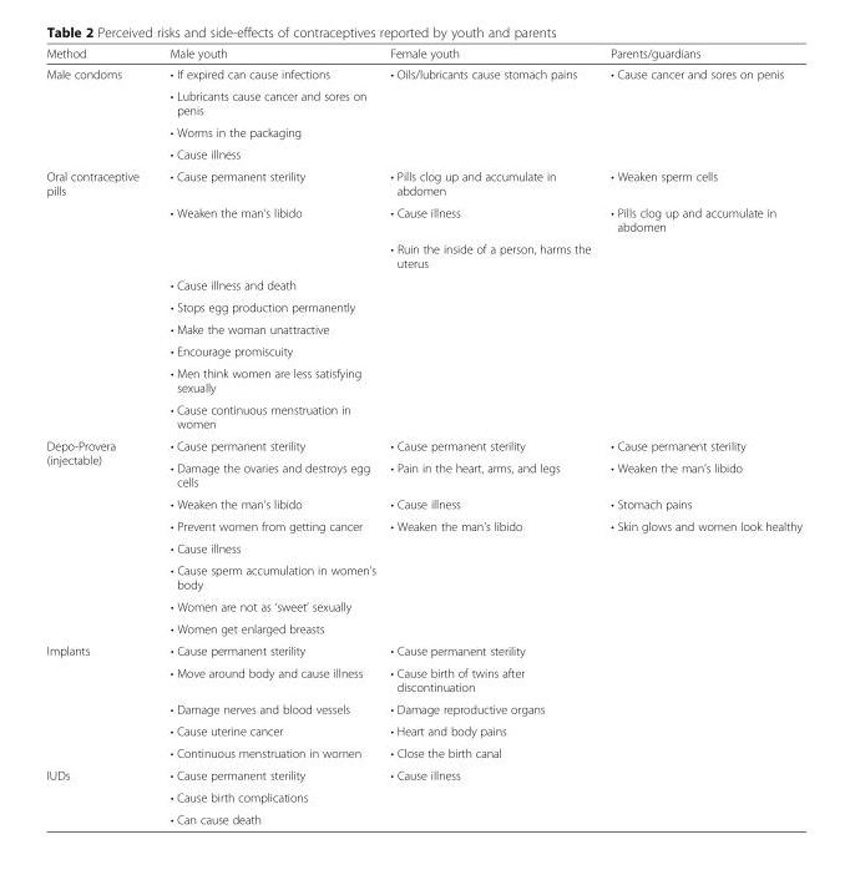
<table><thead><tr><td>Method</td><td>Male youth</td><td>Female youth</td><td>Parents/guardians</td></tr></thead><tbody><tr><td rowspan="4">Male condoms</td><td>• If expired can cause infections</td><td>• Oils/lubricants cause stomach pains</td><td>• Cause cancer and sores on penis</td></tr><tr><td>• Lubricants cause cancer and sores on penis</td><td></td><td></td></tr><tr><td>• Worms in the packaging</td><td></td><td></td></tr><tr><td>• Cause illness</td><td></td><td></td></tr><tr><td rowspan="9">Oral contraceptive pills</td><td>• Cause permanent sterility</td><td>• Pills clog up and accumulate in abdomen</td><td>• Weaken sperm cells</td></tr><tr><td>• Weaken the man’s libido</td><td>• Cause illness</td><td>• Pills clog up and accumulate in abdomen</td></tr><tr><td></td><td>• Ruin the inside of a person, harms the uterus</td><td></td></tr><tr><td>• Cause illness and death</td><td></td><td></td></tr><tr><td>• Stops egg production permanently</td><td></td><td></td></tr><tr><td>• Make the woman unattractive</td><td></td><td></td></tr><tr><td>• Encourage promiscuity</td><td></td><td></td></tr><tr><td>• Men think women are less satisfying sexually</td><td></td><td></td></tr><tr><td>• Cause continuous menstruation in women</td><td></td><td></td></tr><tr><td rowspan="8">Depo-Provera (injectable)</td><td>• Cause permanent sterility</td><td>• Cause permanent sterility</td><td>• Cause permanent sterility</td></tr><tr><td>• Damage the ovaries and destroys egg cells</td><td>• Pain in the heart, arms, and legs</td><td>• Weaken the man’s libido</td></tr><tr><td>• Weaken the man’s libido</td><td>• Cause illness</td><td>• Stomach pains</td></tr><tr><td>• Prevent women from getting cancer</td><td>• Weaken the man’s libido</td><td>• Skin glows and women look healthy</td></tr><tr><td>• Cause illness</td><td></td><td></td></tr><tr><td>• Cause sperm accumulation in women’s body</td><td></td><td></td></tr><tr><td>• Women are not as ‘sweet’ sexually</td><td></td><td></td></tr><tr><td>• Women get enlarged breasts</td><td></td><td></td></tr><tr><td rowspan="5">Implants</td><td>• Cause permanent sterility</td><td>• Cause permanent sterility</td><td></td></tr><tr><td>• Move around body and cause illness</td><td>• Cause birth of twins after discontinuation</td><td></td></tr><tr><td>• Damage nerves and blood vessels</td><td>• Damage reproductive organs</td><td></td></tr><tr><td>• Cause uterine cancer</td><td>• Heart and body pains</td><td></td></tr><tr><td>• Continuous menstruation in women</td><td>• Close the birth canal</td><td></td></tr><tr><td rowspan="3">IUDs</td><td>• Cause permanent sterility</td><td>• Cause illness</td><td></td></tr><tr><td>• Cause birth complications</td><td></td><td></td></tr><tr><td>• Can cause death</td><td></td><td></td></tr></tbody></table>